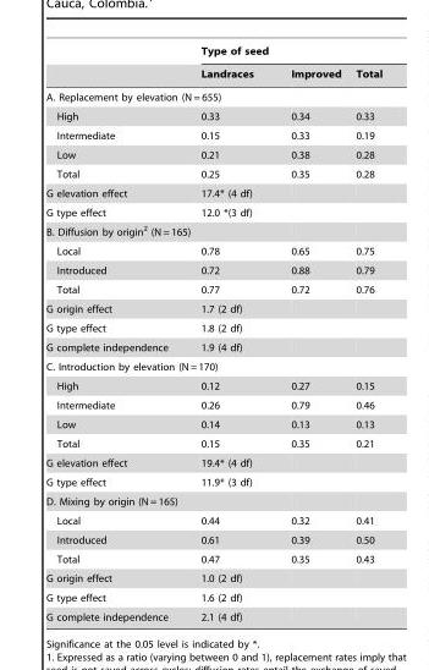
<table><thead><tr><td rowspan="2"></td><td colspan="3">Type of seed</td></tr><tr><td>Landraces</td><td>Improved</td><td>Total</td></tr></thead><tbody><tr><td colspan="4">A. Replacement by elevation (N = 655)</td></tr><tr><td>High</td><td>0.33</td><td>0.34</td><td>0.33</td></tr><tr><td>Intermediate</td><td>0.15</td><td>0.33</td><td>0.19</td></tr><tr><td>Low</td><td>0.21</td><td>0.38</td><td>0.28</td></tr><tr><td>Total</td><td>0.25</td><td>0.35</td><td>0.28</td></tr><tr><td>G elevation effect</td><td>17.4* (4 df)</td><td></td><td></td></tr><tr><td>G type effect</td><td>12.0 *(3 df)</td><td></td><td></td></tr><tr><td colspan="4">B. Diffusion by origin<sup>2</sup> (N = 165)</td></tr><tr><td>Local</td><td>0.78</td><td>0.65</td><td>0.75</td></tr><tr><td>Introduced</td><td>0.72</td><td>0.88</td><td>0.79</td></tr><tr><td>Total</td><td>0.77</td><td>0.72</td><td>0.76</td></tr><tr><td>G origin effect</td><td>1.7 (2 df)</td><td></td><td></td></tr><tr><td>G type effect</td><td>1.8 (2 df)</td><td></td><td></td></tr><tr><td>G complete independence</td><td>1.9 (4 df)</td><td></td><td></td></tr><tr><td colspan="4">C. Introduction by elevation (N = 170)</td></tr><tr><td>High</td><td>0.12</td><td>0.27</td><td>0.15</td></tr><tr><td>Intermediate</td><td>0.26</td><td>0.79</td><td>0.46</td></tr><tr><td>Low</td><td>0.14</td><td>0.13</td><td>0.13</td></tr><tr><td>Total</td><td>0.15</td><td>0.35</td><td>0.21</td></tr><tr><td>G elevation effect</td><td>19.4* (4 df)</td><td></td><td></td></tr><tr><td>G type effect</td><td>11.9* (3 df)</td><td></td><td></td></tr><tr><td colspan="4">D. Mixing by origin (N = 165)</td></tr><tr><td>Local</td><td>0.44</td><td>0.32</td><td>0.41</td></tr><tr><td>Introduced</td><td>0.61</td><td>0.39</td><td>0.50</td></tr><tr><td>Total</td><td>0.47</td><td>0.35</td><td>0.43</td></tr><tr><td>G origin effect</td><td>1.0 (2 df)</td><td></td><td></td></tr><tr><td>G type effect</td><td>1.6 (2 df)</td><td></td><td></td></tr><tr><td>G complete independence</td><td>2.1 (4 df)</td><td></td><td></td></tr></tbody></table>